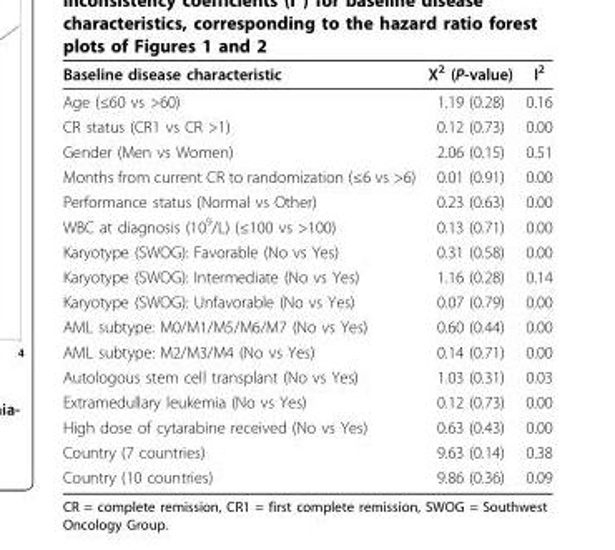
<table><thead><tr><td>Baseline disease characteristic</td><td>X<sup>2</sup> (P-value)</td><td>I<sup>2</sup></td></tr></thead><tbody><tr><td>Age (≤60 vs &gt;60)</td><td>1.19 (0.28)</td><td>0.16</td></tr><tr><td>CR status (CR1 vs CR &gt;1)</td><td>0.12 (0.73)</td><td>0.00</td></tr><tr><td>Gender (Men vs Women)</td><td>2.06 (0.15)</td><td>0.51</td></tr><tr><td>Months from current CR to randomization (≤6 vs &gt;6)</td><td>0.01 (0.91)</td><td>0.00</td></tr><tr><td>Performance status (Normal vs Other)</td><td>0.23 (0.63)</td><td>0.00</td></tr><tr><td>WBC at diagnosis (10<sup>9</sup>/L) (≤100 vs &gt;100)</td><td>0.13 (0.71)</td><td>0.00</td></tr><tr><td>Karyotype (SWOG): Favorable (No vs Yes)</td><td>0.31 (0.58)</td><td>0.00</td></tr><tr><td>Karyotype (SWOG): Intermediate (No vs Yes)</td><td>1.16 (0.28)</td><td>0.14</td></tr><tr><td>Karyotype (SWOG): Unfavorable (No vs Yes)</td><td>0.07 (0.79)</td><td>0.00</td></tr><tr><td>AML subtype: M0/M1/M5/M6/M7 (No vs Yes)</td><td>0.60 (0.44)</td><td>0.00</td></tr><tr><td>AML subtype: M2/M3/M4 (No vs Yes)</td><td>0.14 (0.71)</td><td>0.00</td></tr><tr><td>Autologous stem cell transplant (No vs Yes)</td><td>1.03 (0.31)</td><td>0.03</td></tr><tr><td>Extramedullary leukemia (No vs Yes)</td><td>0.12 (0.73)</td><td>0.00</td></tr><tr><td>High dose of cytarabine received (No vs Yes)</td><td>0.63 (0.43)</td><td>0.00</td></tr><tr><td>Country (7 countries)</td><td>9.63 (0.14)</td><td>0.38</td></tr><tr><td>Country (10 countries)</td><td>9.86 (0.36)</td><td>0.09</td></tr></tbody></table>